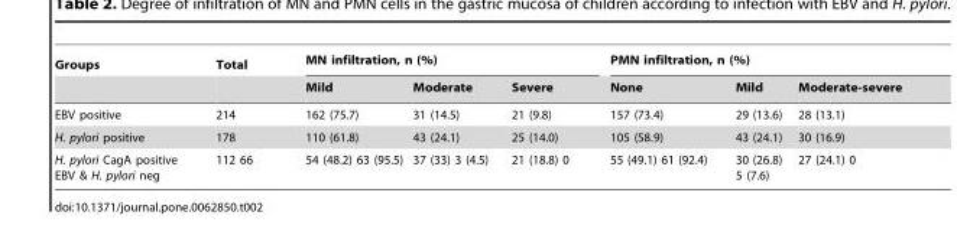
<table><thead><tr><td rowspan="2">Groups</td><td rowspan="2">Total</td><td colspan="3">MN infiltration, n (%)</td><td colspan="3">PMN infiltration, n (%)</td></tr><tr><td>Mild</td><td>Moderate</td><td>Severe</td><td>None</td><td>Mild</td><td>Moderate-severe</td></tr></thead><tbody><tr><td>EBV positive</td><td>214</td><td>162 (75.7)</td><td>31 (14.5)</td><td>21 (9.8)</td><td>157 (73.4)</td><td>29 (13.6)</td><td>28 (13.1)</td></tr><tr><td>H. pylori positive</td><td>178</td><td>110 (61.8)</td><td>43 (24.1)</td><td>25 (14.0)</td><td>105 (58.9)</td><td>43 (24.1)</td><td>30 (16.9)</td></tr><tr><td>H. pylori CagA positive EBV &amp; H. pylori neg</td><td>112 66</td><td>54 (48.2) 63 (95.5)</td><td>37 (33) 3 (4.5)</td><td>21 (18.8) 0</td><td>55 (49.1) 61 (92.4)</td><td>30 (26.8) 5 (7.6)</td><td>27 (24.1) 0</td></tr></tbody></table>